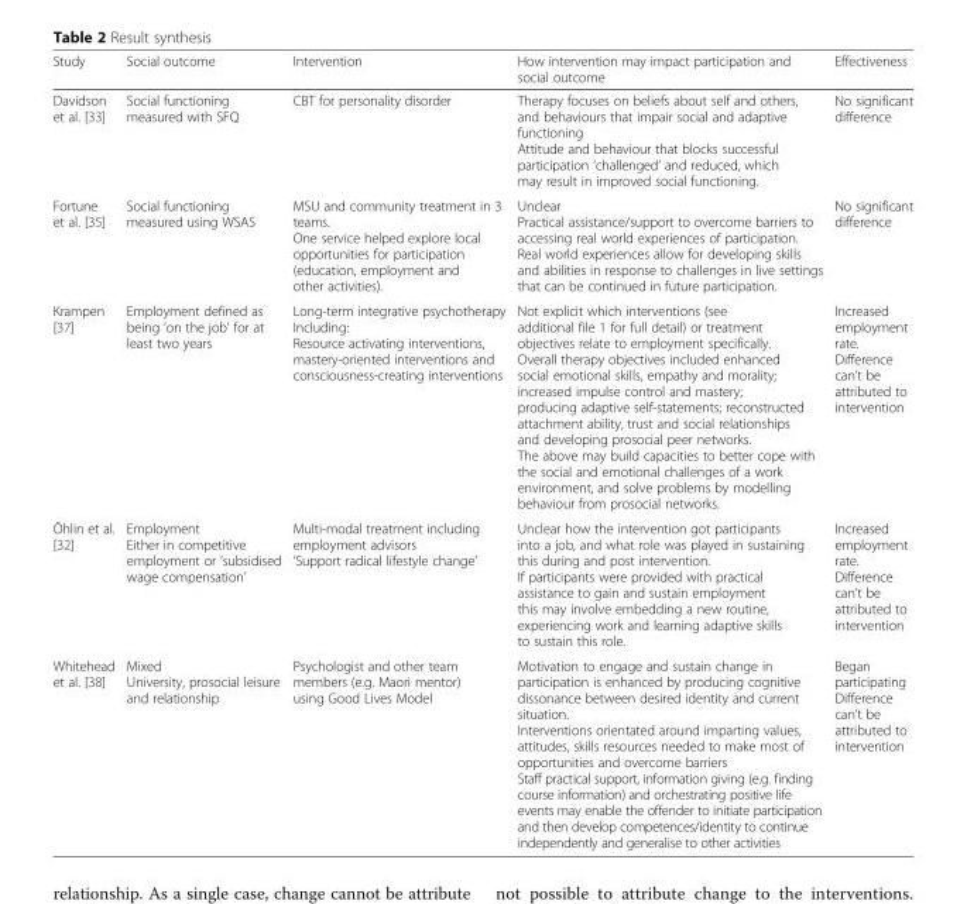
<table><thead><tr><td>Study</td><td>Social outcome</td><td>Intervention</td><td>How intervention may impact participation and social outcome</td><td>Effectiveness</td></tr></thead><tbody><tr><td>Davidson et al. [33]</td><td>Social functioning measured with SFQ</td><td>CBT for personality disorder</td><td>Therapy focuses on beliefs about self and others, and behaviours that impair social and adaptive functioning Attitude and behaviour that blocks successful participation ‘challenged’ and reduced, which may result in improved social functioning.</td><td>No significant difference</td></tr><tr><td>Fortune et al. [35]</td><td>Social functioning measured using WSAS</td><td>MSU and community treatment in 3 teams. One service helped explore local opportunities for participation (education, employment and other activities).</td><td>Unclear Practical assistance/support to overcome barriers to accessing real world experiences of participation. Real world experiences allow for developing skills and abilities in response to challenges in live settings that can be continued in future participation.</td><td>No significant difference</td></tr><tr><td>Krampen [37]</td><td>Employment defined as being ‘on the job’ for at least two years</td><td>Long-term integrative psychotherapy Including: Resource activating interventions, mastery-oriented interventions and consciousness-creating interventions</td><td>Not explicit which interventions (see additional file 1 for full detail) or treatment objectives relate to employment specifically. Overall therapy objectives included enhanced social emotional skills, empathy and morality; increased impulse control and mastery; producing adaptive self-statements; reconstructed attachment ability, trust and social relationships and developing prosocial peer networks. The above may build capacities to better cope with the social and emotional challenges of a work environment, and solve problems by modelling behaviour from prosocial networks.</td><td>Increased employment rate. Difference can’t be attributed to intervention</td></tr><tr><td>Öhlin et al. [32]</td><td>Employment Either in competitive employment or ‘subsidised wage compensation’</td><td>Multi-modal treatment including employment advisors ‘Support radical lifestyle change’</td><td>Unclear how the intervention got participants into a job, and what role was played in sustaining this during and post intervention. If participants were provided with practical assistance to gain and sustain employment this may involve embedding a new routine, experiencing work and learning adaptive skills to sustain this role.</td><td>Increased employment rate. Difference can’t be attributed to intervention</td></tr><tr><td>Whitehead et al. [38]</td><td>Mixed University, prosocial leisure and relationship</td><td>Psychologist and other team members (e.g. Maori mentor) using Good Lives Model</td><td>Motivation to engage and sustain change in participation is enhanced by producing cognitive dissonance between desired identity and current situation. Interventions orientated around imparting values, attitudes, skills resources needed to make most of opportunities and overcome barriers Staff practical support, information giving (e.g. finding course information) and orchestrating positive life events may enable the offender to initiate participation and then develop competences/identity to continue independently and generalise to other activities</td><td>Began participating Difference can’t be attributed to intervention</td></tr></tbody></table>